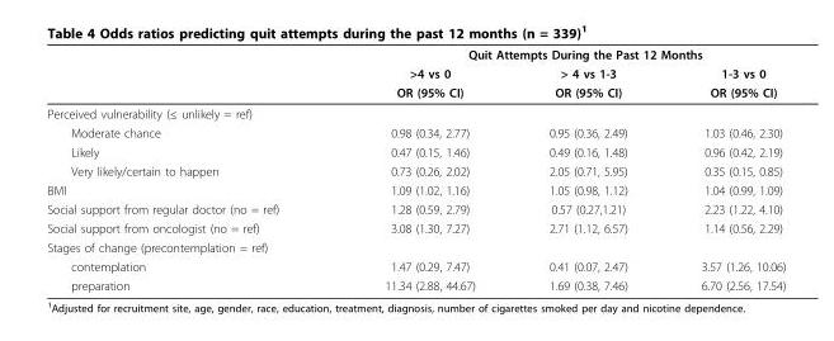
<table><thead><tr><td rowspan="3"></td><td colspan="3">Quit Attempts During the Past 12 Months</td></tr><tr><td rowspan="2">&gt;4 vs 0 OR (95% CI)</td><td rowspan="2">&gt; 4 vs 1-3 OR (95% CI)</td><td rowspan="2">1-3 vs 0 OR (95% CI)</td></tr><tr></tr></thead><tbody><tr><td colspan="4">Perceived vulnerability (≤ unlikely = ref)</td></tr><tr><td>Moderate chance</td><td>0.98 (0.34, 2.77)</td><td>0.95 (0.36, 2.49)</td><td>1.03 (0.46, 2.30)</td></tr><tr><td>Likely</td><td>0.47 (0.15, 1.46)</td><td>0.49 (0.16, 1.48)</td><td>0.96 (0.42, 2.19)</td></tr><tr><td>Very likely/certain to happen</td><td>0.73 (0.26, 2.02)</td><td>2.05 (0.71, 5.95)</td><td>0.35 (0.15, 0.85)</td></tr><tr><td>BMI</td><td>1.09 (1.02, 1.16)</td><td>1.05 (0.98, 1.12)</td><td>1.04 (0.99, 1.09)</td></tr><tr><td>Social support from regular doctor (no = ref)</td><td>1.28 (0.59, 2.79)</td><td>0.57 (0.27,1.21)</td><td>2.23 (1.22, 4.10)</td></tr><tr><td>Social support from oncologist (no = ref)</td><td>3.08 (1.30, 7.27)</td><td>2.71 (1.12, 6.57)</td><td>1.14 (0.56, 2.29)</td></tr><tr><td colspan="4">Stages of change (precontemplation = ref)</td></tr><tr><td>contemplation</td><td>1.47 (0.29, 7.47)</td><td>0.41 (0.07, 2.47)</td><td>3.57 (1.26, 10.06)</td></tr><tr><td>preparation</td><td>11.34 (2.88, 44.67)</td><td>1.69 (0.38, 7.46)</td><td>6.70 (2.56, 17.54)</td></tr></tbody></table>